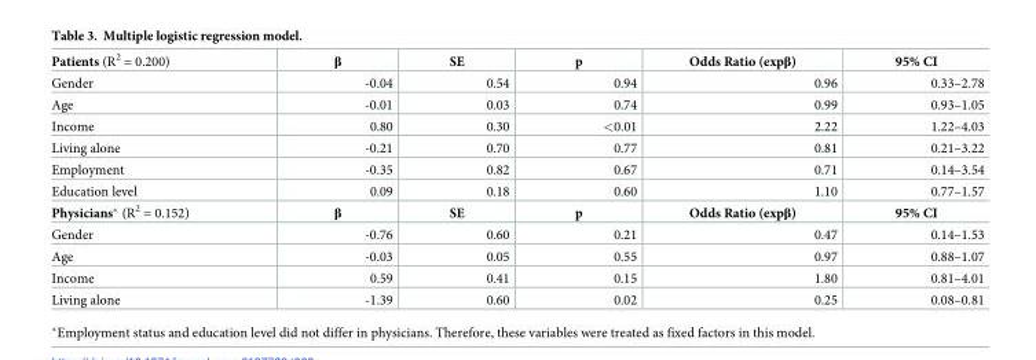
<table><tbody><tr><td>Patients (R<sup>2</sup> = 0.200)</td><td>β</td><td>SE</td><td>p</td><td>Odds Ratio (expβ)</td><td>95% CI</td></tr><tr><td>Gender</td><td>-0.04</td><td>0.54</td><td>0.94</td><td>0.96</td><td>0.33–2.78</td></tr><tr><td>Age</td><td>-0.01</td><td>0.03</td><td>0.74</td><td>0.99</td><td>0.93–1.05</td></tr><tr><td>Income</td><td>0.80</td><td>0.30</td><td>&lt;0.01</td><td>2.22</td><td>1.22–4.03</td></tr><tr><td>Living alone</td><td>-0.21</td><td>0.70</td><td>0.77</td><td>0.81</td><td>0.21–3.22</td></tr><tr><td>Employment</td><td>-0.35</td><td>0.82</td><td>0.67</td><td>0.71</td><td>0.14–3.54</td></tr><tr><td>Education level</td><td>0.09</td><td>0.18</td><td>0.60</td><td>1.10</td><td>0.77–1.57</td></tr><tr><td>Physicians* (R<sup>2</sup> = 0.152)</td><td>β</td><td>SE</td><td>p</td><td>Odds Ratio (expβ)</td><td>95% CI</td></tr><tr><td>Gender</td><td>-0.76</td><td>0.60</td><td>0.21</td><td>0.47</td><td>0.14–1.53</td></tr><tr><td>Age</td><td>-0.03</td><td>0.05</td><td>0.55</td><td>0.97</td><td>0.88–1.07</td></tr><tr><td>Income</td><td>0.59</td><td>0.41</td><td>0.15</td><td>1.80</td><td>0.81–4.01</td></tr><tr><td>Living alone</td><td>-1.39</td><td>0.60</td><td>0.02</td><td>0.25</td><td>0.08–0.81</td></tr></tbody></table>